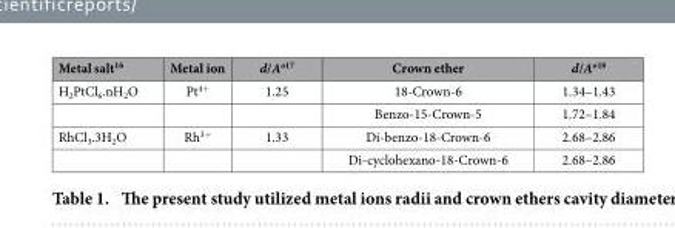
<table><thead><tr><td>Metal salt<sup>16</sup></td><td>Metal ion</td><td>d/A<sup>o17</sup></td><td>Crown ether</td><td>d/A<sup>o18</sup></td></tr></thead><tbody><tr><td rowspan="2">H<sub>2</sub>PtCl<sub>6</sub>.nH<sub>2</sub>O</td><td>Pt<sup>4+</sup></td><td>1.25</td><td>18-Crown-6</td><td>1.34–1.43</td></tr><tr><td></td><td></td><td>Benzo-15-Crown-5</td><td>1.72–1.84</td></tr><tr><td rowspan="2">RhCl<sub>3</sub>.3H<sub>2</sub>O</td><td>Rh<sup>3+</sup></td><td>1.33</td><td>Di-benzo-18-Crown-6</td><td>2.68–2.86</td></tr><tr><td></td><td></td><td>Di-cyclohexano-18-Crown-6</td><td>2.68–2.86</td></tr></tbody></table>